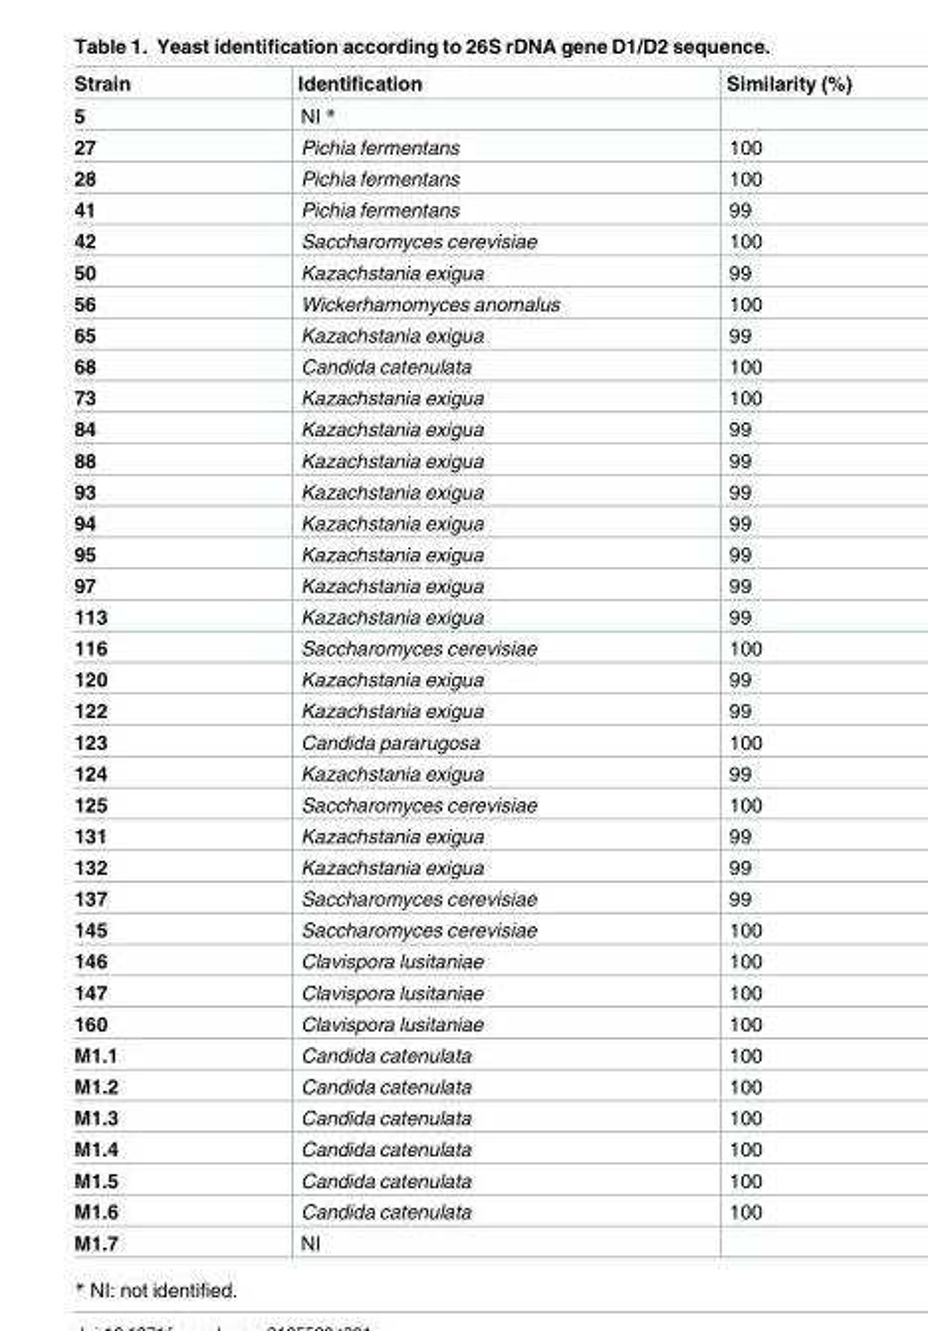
<table><thead><tr><td>Strain</td><td>Identification</td><td>Similarity (%)</td></tr></thead><tbody><tr><td>5</td><td>NI *</td><td></td></tr><tr><td>27</td><td>Pichia fermentans</td><td>100</td></tr><tr><td>28</td><td>Pichia fermentans</td><td>100</td></tr><tr><td>41</td><td>Pichia fermentans</td><td>99</td></tr><tr><td>42</td><td>Saccharomyces cerevisiae</td><td>100</td></tr><tr><td>50</td><td>Kazachstania exigua</td><td>99</td></tr><tr><td>56</td><td>Wickerhamomyces anomalus</td><td>100</td></tr><tr><td>65</td><td>Kazachstania exigua</td><td>99</td></tr><tr><td>68</td><td>Candida catenulata</td><td>100</td></tr><tr><td>73</td><td>Kazachstania exigua</td><td>100</td></tr><tr><td>84</td><td>Kazachstania exigua</td><td>99</td></tr><tr><td>88</td><td>Kazachstania exigua</td><td>99</td></tr><tr><td>93</td><td>Kazachstania exigua</td><td>99</td></tr><tr><td>94</td><td>Kazachstania exigua</td><td>99</td></tr><tr><td>95</td><td>Kazachstania exigua</td><td>99</td></tr><tr><td>97</td><td>Kazachstania exigua</td><td>99</td></tr><tr><td>113</td><td>Kazachstania exigua</td><td>99</td></tr><tr><td>116</td><td>Saccharomyces cerevisiae</td><td>100</td></tr><tr><td>120</td><td>Kazachstania exigua</td><td>99</td></tr><tr><td>122</td><td>Kazachstania exigua</td><td>99</td></tr><tr><td>123</td><td>Candida pararugosa</td><td>100</td></tr><tr><td>124</td><td>Kazachstania exigua</td><td>99</td></tr><tr><td>125</td><td>Saccharomyces cerevisiae</td><td>100</td></tr><tr><td>131</td><td>Kazachstania exigua</td><td>99</td></tr><tr><td>132</td><td>Kazachstania exigua</td><td>99</td></tr><tr><td>137</td><td>Saccharomyces cerevisiae</td><td>99</td></tr><tr><td>145</td><td>Saccharomyces cerevisiae</td><td>100</td></tr><tr><td>146</td><td>Clavispora lusitaniae</td><td>100</td></tr><tr><td>147</td><td>Clavispora lusitaniae</td><td>100</td></tr><tr><td>160</td><td>Clavispora lusitaniae</td><td>100</td></tr><tr><td>M1.1</td><td>Candida catenulata</td><td>100</td></tr><tr><td>M1.2</td><td>Candida catenulata</td><td>100</td></tr><tr><td>M1.3</td><td>Candida catenulata</td><td>100</td></tr><tr><td>M1.4</td><td>Candida catenulata</td><td>100</td></tr><tr><td>M1.5</td><td>Candida catenulata</td><td>100</td></tr><tr><td>M1.6</td><td>Candida catenulata</td><td>100</td></tr><tr><td>M1.7</td><td>NI</td><td></td></tr></tbody></table>